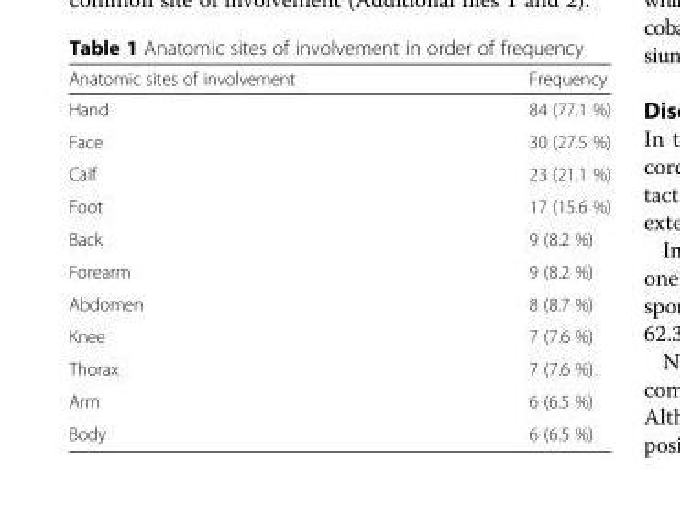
<table><thead><tr><td>Anatomic sites of involvement</td><td>Frequency</td></tr></thead><tbody><tr><td>Hand</td><td>84 (77.1 %)</td></tr><tr><td>Face</td><td>30 (27.5 %)</td></tr><tr><td>Calf</td><td>23 (21.1 %)</td></tr><tr><td>Foot</td><td>17 (15.6 %)</td></tr><tr><td>Back</td><td>9 (8.2 %)</td></tr><tr><td>Forearm</td><td>9 (8.2 %)</td></tr><tr><td>Abdomen</td><td>8 (8.7 %)</td></tr><tr><td>Knee</td><td>7 (7.6 %)</td></tr><tr><td>Thorax</td><td>7 (7.6 %)</td></tr><tr><td>Arm</td><td>6 (6.5 %)</td></tr><tr><td>Body</td><td>6 (6.5 %)</td></tr></tbody></table>